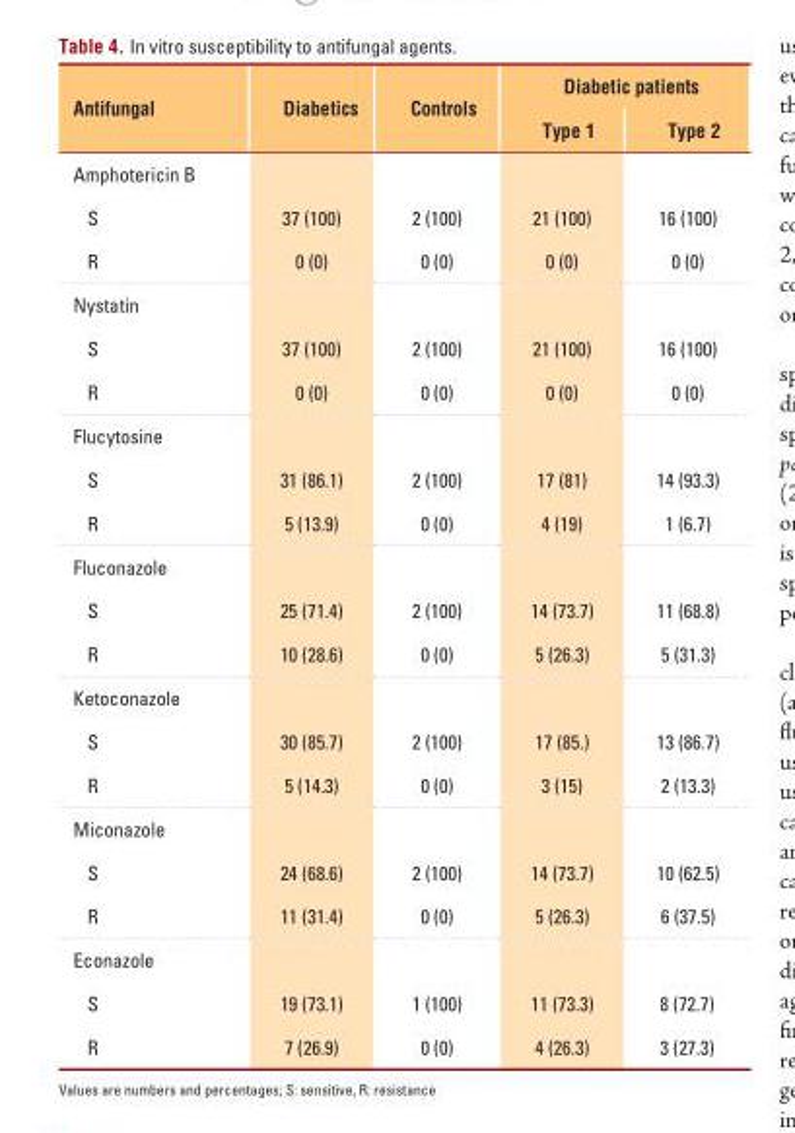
<table><thead><tr><td rowspan="2">Antifungal</td><td rowspan="2">Diabetics</td><td rowspan="2">Controls</td><td colspan="2">Diabetic patients</td></tr><tr><td>Type 1</td><td>Type 2</td></tr></thead><tbody><tr><td colspan="5">Amphotericin B</td></tr><tr><td>S</td><td>37 (100)</td><td>2 (100)</td><td>21 (100)</td><td>16 (100)</td></tr><tr><td>R</td><td>0 (0)</td><td>0 (0)</td><td>0 (0)</td><td>0 (0)</td></tr><tr><td colspan="5">Nystatin</td></tr><tr><td>S</td><td>37 (100)</td><td>2 (100)</td><td>21 (100)</td><td>16 (100)</td></tr><tr><td>R</td><td>0 (0)</td><td>0 (0)</td><td>0 (0)</td><td>0 (0)</td></tr><tr><td colspan="5">Flucytosine</td></tr><tr><td>S</td><td>31 (86.1)</td><td>2 (100)</td><td>17 (81)</td><td>14 (93.3)</td></tr><tr><td>R</td><td>5 (13.9)</td><td>0 (0)</td><td>4 (19)</td><td>1 (6.7)</td></tr><tr><td colspan="5">Fluconazole</td></tr><tr><td>S</td><td>25 (71.4)</td><td>2 (100)</td><td>14 (73.7)</td><td>11 (68.8)</td></tr><tr><td>R</td><td>10 (28.6)</td><td>0 (0)</td><td>5 (26.3)</td><td>5 (31.3)</td></tr><tr><td colspan="5">Ketoconazole</td></tr><tr><td>S</td><td>30 (85.7)</td><td>2 (100)</td><td>17 (85.)</td><td>13 (86.7)</td></tr><tr><td>R</td><td>5 (14.3)</td><td>0 (0)</td><td>3 (15)</td><td>2 (13.3)</td></tr><tr><td colspan="5">Miconazole</td></tr><tr><td>S</td><td>24 (68.6)</td><td>2 (100)</td><td>14 (73.7)</td><td>10 (62.5)</td></tr><tr><td>R</td><td>11 (31.4)</td><td>0 (0)</td><td>5 (26.3)</td><td>6 (37.5)</td></tr><tr><td colspan="5">Econazole</td></tr><tr><td>S</td><td>19 (73.1)</td><td>1 (100)</td><td>11 (73.3)</td><td>8 (72.7)</td></tr><tr><td>R</td><td>7 (26.9)</td><td>0 (0)</td><td>4 (26.3)</td><td>3 (27.3)</td></tr></tbody></table>